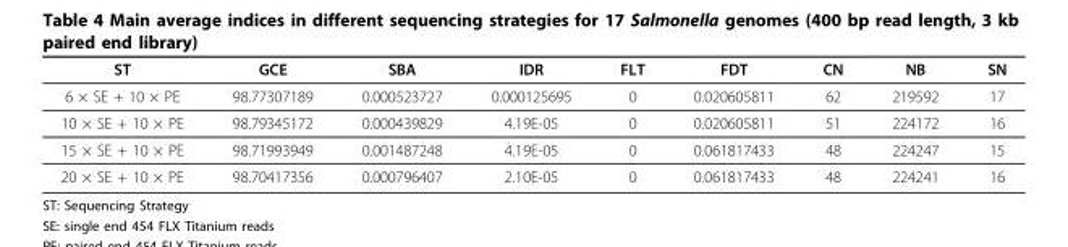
<table><thead><tr><td>ST</td><td>GCE</td><td>SBA</td><td>IDR</td><td>FLT</td><td>FDT</td><td>CN</td><td>NB</td><td>SN</td></tr></thead><tbody><tr><td>6 × SE + 10 × PE</td><td>98.77307189</td><td>0.000523727</td><td>0.000125695</td><td>0</td><td>0.020605811</td><td>62</td><td>219592</td><td>17</td></tr><tr><td>10 × SE + 10 × PE</td><td>98.79345172</td><td>0.000439829</td><td>4.19E-05</td><td>0</td><td>0.020605811</td><td>51</td><td>224172</td><td>16</td></tr><tr><td>15 × SE + 10 × PE</td><td>98.71993949</td><td>0.001487248</td><td>4.19E-05</td><td>0</td><td>0.061817433</td><td>48</td><td>224247</td><td>15</td></tr><tr><td>20 × SE + 10 × PE</td><td>98.70417356</td><td>0.000796407</td><td>2.10E-05</td><td>0</td><td>0.061817433</td><td>48</td><td>224241</td><td>16</td></tr></tbody></table>